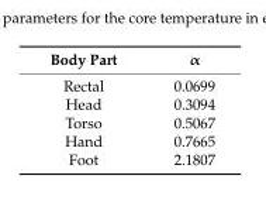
<table><thead><tr><td>Body Part</td><td>α</td></tr></thead><tbody><tr><td>Rectal</td><td>0.0699</td></tr><tr><td>Head</td><td>0.3094</td></tr><tr><td>Torso</td><td>0.5067</td></tr><tr><td>Hand</td><td>0.7665</td></tr><tr><td>Foot</td><td>2.1807</td></tr></tbody></table>